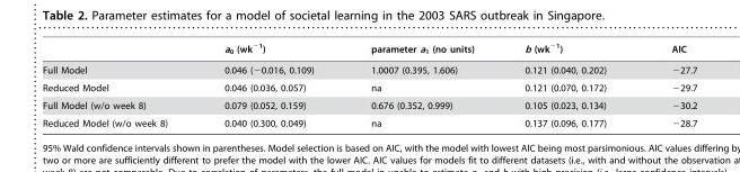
<table><thead><tr><td></td><td>a<sub>0</sub> (wk<sup>−1</sup>)</td><td>parameter a<sub>1</sub> (no units)</td><td>b (wk<sup>−1</sup>)</td><td>AIC</td></tr></thead><tbody><tr><td>Full Model</td><td>0.046 (−0.016, 0.109)</td><td>1.0007 (0.395, 1.606)</td><td>0.121 (0.040, 0.202)</td><td>−27.7</td></tr><tr><td>Reduced Model</td><td>0.046 (0.036, 0.057)</td><td>na</td><td>0.121 (0.070, 0.172)</td><td>−29.7</td></tr><tr><td>Full Model (w/o week 8)</td><td>0.079 (0.052, 0.159)</td><td>0.676 (0.352, 0.999)</td><td>0.105 (0.023, 0.134)</td><td>−30.2</td></tr><tr><td>Reduced Model (w/o week 8)</td><td>0.040 (0.300, 0.049)</td><td>na</td><td>0.137 (0.096, 0.177)</td><td>−28.7</td></tr></tbody></table>